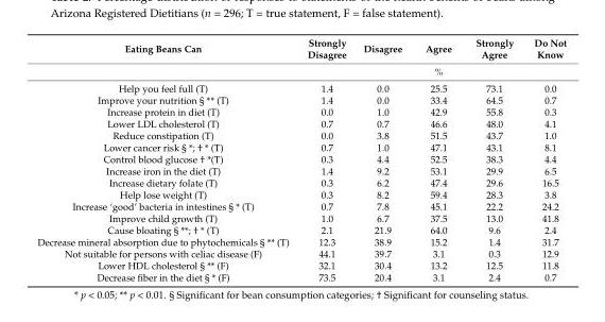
<table><thead><tr><td>Eating Beans Can</td><td>Strongly Disagree</td><td>Disagree</td><td>Agree</td><td>Strongly Agree</td><td>Do Not Know</td></tr></thead><tbody><tr><td></td><td colspan="5">%</td></tr><tr><td>Help you feel full (T)</td><td>1.4</td><td>0.0</td><td>25.5</td><td>73.1</td><td>0.0</td></tr><tr><td>Improve your nutrition § ** (T)</td><td>1.4</td><td>0.0</td><td>33.4</td><td>64.5</td><td>0.7</td></tr><tr><td>Increase protein in diet (T)</td><td>0.0</td><td>1.0</td><td>42.9</td><td>55.8</td><td>0.3</td></tr><tr><td>Lower LDL cholesterol (T)</td><td>0.7</td><td>0.7</td><td>46.6</td><td>48.0</td><td>4.1</td></tr><tr><td>Reduce constipation (T)</td><td>0.0</td><td>3.8</td><td>51.5</td><td>43.7</td><td>1.0</td></tr><tr><td>Lower cancer risk § *; † * (T)</td><td>0.7</td><td>1.0</td><td>47.1</td><td>43.1</td><td>8.1</td></tr><tr><td>Control blood glucose † *(T)</td><td>0.3</td><td>4.4</td><td>52.5</td><td>38.3</td><td>4.4</td></tr><tr><td>Increase iron in the diet (T)</td><td>1.4</td><td>9.2</td><td>53.1</td><td>29.9</td><td>6.5</td></tr><tr><td>Increase dietary folate (T)</td><td>0.3</td><td>6.2</td><td>47.4</td><td>29.6</td><td>16.5</td></tr><tr><td>Help lose weight (T)</td><td>0.3</td><td>8.2</td><td>59.4</td><td>28.3</td><td>3.8</td></tr><tr><td>Increase ‘good’ bacteria in intestines § * (T)</td><td>0.7</td><td>7.8</td><td>45.1</td><td>22.2</td><td>24.2</td></tr><tr><td>Improve child growth (T)</td><td>1.0</td><td>6.7</td><td>37.5</td><td>13.0</td><td>41.8</td></tr><tr><td>Cause bloating § **; † * (T)</td><td>2.1</td><td>21.9</td><td>64.0</td><td>9.6</td><td>2.4</td></tr><tr><td>Decrease mineral absorption due to phytochemicals § ** (T)</td><td>12.3</td><td>38.9</td><td>15.2</td><td>1.4</td><td>31.7</td></tr><tr><td>Not suitable for persons with celiac disease (F)</td><td>44.1</td><td>39.7</td><td>3.1</td><td>0.3</td><td>12.9</td></tr><tr><td>Lower HDL cholesterol § ** (F)</td><td>32.1</td><td>30.4</td><td>13.2</td><td>12.5</td><td>11.8</td></tr><tr><td>Decrease fiber in the diet § * (F)</td><td>73.5</td><td>20.4</td><td>3.1</td><td>2.4</td><td>0.7</td></tr></tbody></table>